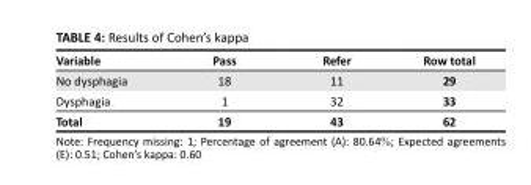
<table><thead><tr><td>Variable</td><td>Pass</td><td>Refer</td><td>Row total</td></tr></thead><tbody><tr><td>No dysphagia</td><td>18</td><td>11</td><td>29</td></tr><tr><td>Dysphagia</td><td>1</td><td>32</td><td>33</td></tr><tr><td>Total</td><td>19</td><td>43</td><td>62</td></tr></tbody></table>